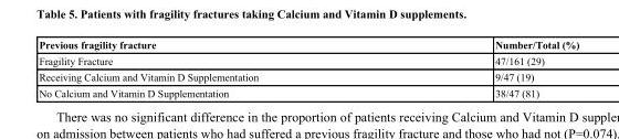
<table><thead><tr><td>Previous fragility fracture</td><td>Number/Total (%)</td></tr></thead><tbody><tr><td>Fragility Fracture</td><td>47/161 (29)</td></tr><tr><td>Receiving Calcium and Vitamin D Supplementation</td><td>9/47 (19)</td></tr><tr><td>No Calcium and Vitamin D Supplementation</td><td>38/47 (81)</td></tr></tbody></table>